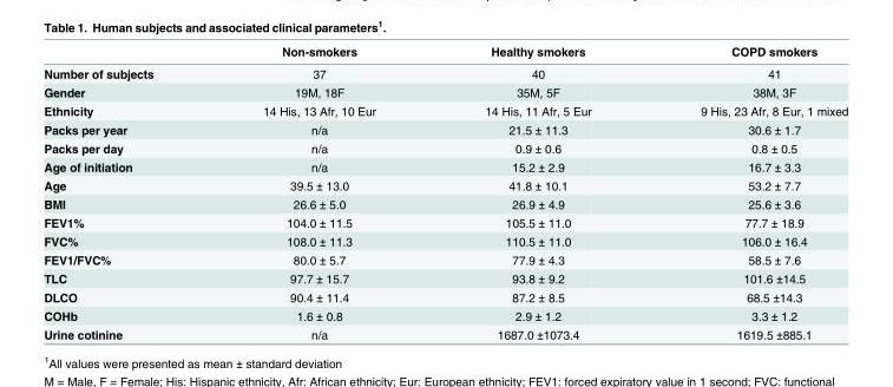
<table><thead><tr><td></td><td>Non-smokers</td><td>Healthy smokers</td><td>COPD smokers</td></tr></thead><tbody><tr><td>Number of subjects</td><td>37</td><td>40</td><td>41</td></tr><tr><td>Gender</td><td>19M, 18F</td><td>35M, 5F</td><td>38M, 3F</td></tr><tr><td>Ethnicity</td><td>14 His, 13 Afr, 10 Eur</td><td>14 His, 11 Afr, 5 Eur</td><td>9 His, 23 Afr, 8 Eur, 1 mixed</td></tr><tr><td>Packs per year</td><td>n/a</td><td>21.5 ± 11.3</td><td>30.6 ± 1.7</td></tr><tr><td>Packs per day</td><td>n/a</td><td>0.9 ± 0.6</td><td>0.8 ± 0.5</td></tr><tr><td>Age of initiation</td><td>n/a</td><td>15.2 ± 2.9</td><td>16.7 ± 3.3</td></tr><tr><td>Age</td><td>39.5 ± 13.0</td><td>41.8 ± 10.1</td><td>53.2 ± 7.7</td></tr><tr><td>BMI</td><td>26.6 ± 5.0</td><td>26.9 ± 4.9</td><td>25.6 ± 3.6</td></tr><tr><td>FEV1%</td><td>104.0 ± 11.5</td><td>105.5 ± 11.0</td><td>77.7 ± 18.9</td></tr><tr><td>FVC%</td><td>108.0 ± 11.3</td><td>110.5 ± 11.0</td><td>106.0 ± 16.4</td></tr><tr><td>FEV1/FVC%</td><td>80.0 ± 5.7</td><td>77.9 ± 4.3</td><td>58.5 ± 7.6</td></tr><tr><td>TLC</td><td>97.7 ± 15.7</td><td>93.8 ± 9.2</td><td>101.6 ±14.5</td></tr><tr><td>DLCO</td><td>90.4 ± 11.4</td><td>87.2 ± 8.5</td><td>68.5 ±14.3</td></tr><tr><td>COHb</td><td>1.6 ± 0.8</td><td>2.9 ± 1.2</td><td>3.3 ± 1.2</td></tr><tr><td>Urine cotinine</td><td>n/a</td><td>1687.0 ±1073.4</td><td>1619.5 ±885.1</td></tr></tbody></table>